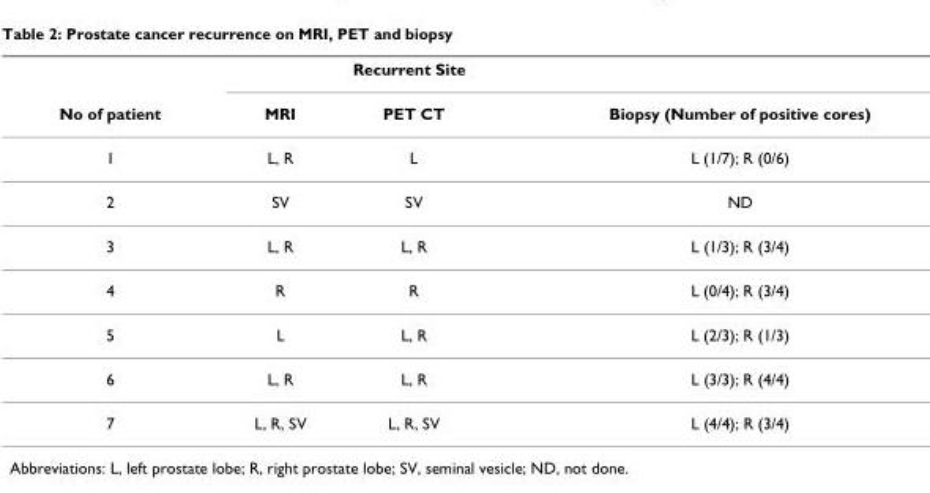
<table><thead><tr><td rowspan="2">No of patient</td><td colspan="3">Recurrent Site</td></tr><tr><td>MRI</td><td>PET CT</td><td>Biopsy (Number of positive cores)</td></tr></thead><tbody><tr><td>1</td><td>L, R</td><td>L</td><td>L (1/7); R (0/6)</td></tr><tr><td>2</td><td>SV</td><td>SV</td><td>ND</td></tr><tr><td>3</td><td>L, R</td><td>L, R</td><td>L (1/3); R (3/4)</td></tr><tr><td>4</td><td>R</td><td>R</td><td>L (0/4); R (3/4)</td></tr><tr><td>5</td><td>L</td><td>L, R</td><td>L (2/3); R (1/3)</td></tr><tr><td>6</td><td>L, R</td><td>L, R</td><td>L (3/3); R (4/4)</td></tr><tr><td>7</td><td>L, R, SV</td><td>L, R, SV</td><td>L (4/4); R (3/4)</td></tr></tbody></table>